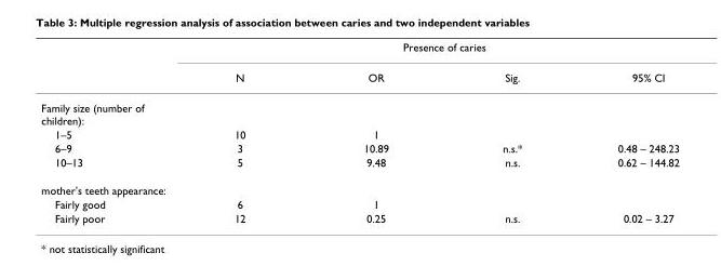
<table><thead><tr><td rowspan="2"></td><td colspan="4">Presence of caries</td></tr><tr><td>N</td><td>OR</td><td>Sig.</td><td>95% CI</td></tr></thead><tbody><tr><td colspan="5">Family size (number of children):</td></tr><tr><td>1–5</td><td>10</td><td>1</td><td></td><td></td></tr><tr><td>6–9</td><td>3</td><td>10.89</td><td>n.s.*</td><td>0.48 – 248.23</td></tr><tr><td>10–13</td><td>5</td><td>9.48</td><td>n.s.</td><td>0.62 – 144.82</td></tr><tr><td colspan="5">mother&#x27;s teeth appearance:</td></tr><tr><td>Fairly good</td><td>6</td><td>1</td><td></td><td></td></tr><tr><td>Fairly poor</td><td>12</td><td>0.25</td><td>n.s.</td><td>0.02 – 3.27</td></tr></tbody></table>